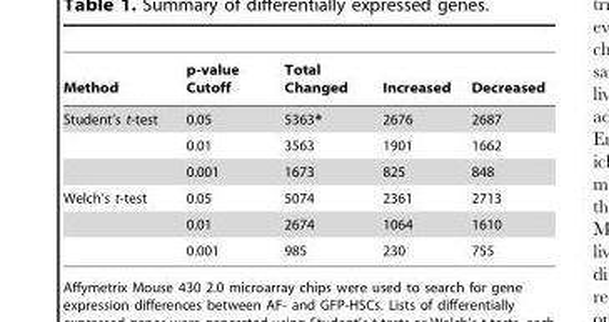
<table><thead><tr><td>Method</td><td>p-value Cutoff</td><td>Total Changed</td><td>Increased</td><td>Decreased</td></tr></thead><tbody><tr><td rowspan="3">Student’s t-test</td><td>0.05</td><td>5363*</td><td>2676</td><td>2687</td></tr><tr><td>0.01</td><td>3563</td><td>1901</td><td>1662</td></tr><tr><td>0.001</td><td>1673</td><td>825</td><td>848</td></tr><tr><td rowspan="3">Welch’s t-test</td><td>0.05</td><td>5074</td><td>2361</td><td>2713</td></tr><tr><td>0.01</td><td>2674</td><td>1064</td><td>1610</td></tr><tr><td>0.001</td><td>985</td><td>230</td><td>755</td></tr></tbody></table>